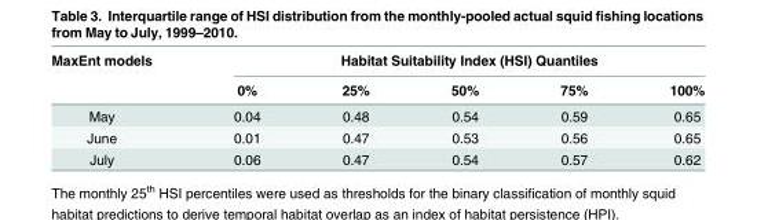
<table><thead><tr><td rowspan="2">MaxEnt models</td><td colspan="5">Habitat Suitability Index (HSI) Quantiles</td></tr><tr><td>0%</td><td>25%</td><td>50%</td><td>75%</td><td>100%</td></tr></thead><tbody><tr><td>May</td><td>0.04</td><td>0.48</td><td>0.54</td><td>0.59</td><td>0.65</td></tr><tr><td>June</td><td>0.01</td><td>0.47</td><td>0.53</td><td>0.56</td><td>0.65</td></tr><tr><td>July</td><td>0.06</td><td>0.47</td><td>0.54</td><td>0.57</td><td>0.62</td></tr></tbody></table>